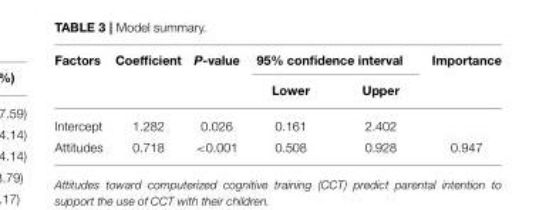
<table><thead><tr><td rowspan="2">Factors</td><td rowspan="2">Coefficient</td><td rowspan="2">P-value</td><td colspan="2">95% confidence interval</td><td rowspan="2">Importance</td></tr><tr><td>Lower</td><td>Upper</td></tr></thead><tbody><tr><td>Intercept</td><td>1.282</td><td>0.026</td><td>0.161</td><td>2.402</td><td></td></tr><tr><td>Attitudes</td><td>0.718</td><td>&lt;0.001</td><td>0.508</td><td>0.928</td><td>0.947</td></tr></tbody></table>